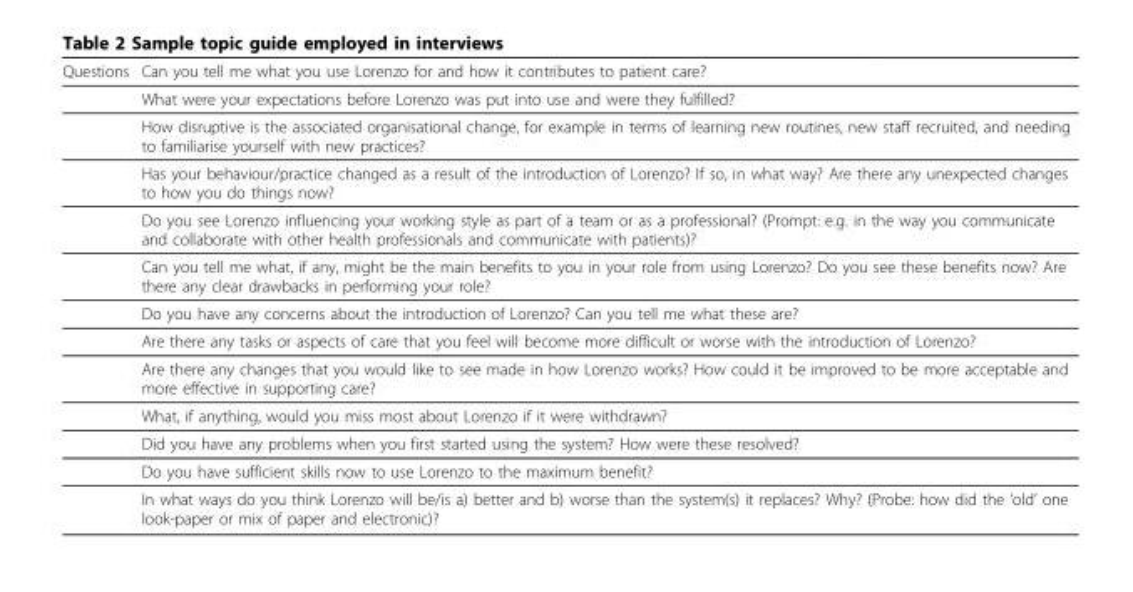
<table><thead><tr><td>Questions</td><td>Can you tell me what you use Lorenzo for and how it contributes to patient care?</td></tr></thead><tbody><tr><td></td><td>What were your expectations before Lorenzo was put into use and were they fulfilled?</td></tr><tr><td></td><td>How disruptive is the associated organisational change, for example in terms of learning new routines, new staff recruited, and needing to familiarise yourself with new practices?</td></tr><tr><td></td><td>Has your behaviour/practice changed as a result of the introduction of Lorenzo? If so, in what way? Are there any unexpected changes to how you do things now?</td></tr><tr><td></td><td>Do you see Lorenzo influencing your working style as part of a team or as a professional? (Prompt: e.g. in the way you communicate and collaborate with other health professionals and communicate with patients)?</td></tr><tr><td></td><td>Can you tell me what, if any, might be the main benefits to you in your role from using Lorenzo? Do you see these benefits now? Are there any clear drawbacks in performing your role?</td></tr><tr><td></td><td>Do you have any concerns about the introduction of Lorenzo? Can you tell me what these are?</td></tr><tr><td></td><td>Are there any tasks or aspects of care that you feel will become more difficult or worse with the introduction of Lorenzo?</td></tr><tr><td></td><td>Are there any changes that you would like to see made in how Lorenzo works? How could it be improved to be more acceptable and more effective in supporting care?</td></tr><tr><td></td><td>What, if anything, would you miss most about Lorenzo if it were withdrawn?</td></tr><tr><td></td><td>Did you have any problems when you first started using the system? How were these resolved?</td></tr><tr><td></td><td>Do you have sufficient skills now to use Lorenzo to the maximum benefit?</td></tr><tr><td></td><td>In what ways do you think Lorenzo will be/is a) better and b) worse than the system(s) it replaces? Why? (Probe: how did the ‘old’ one look-paper or mix of paper and electronic)?</td></tr></tbody></table>